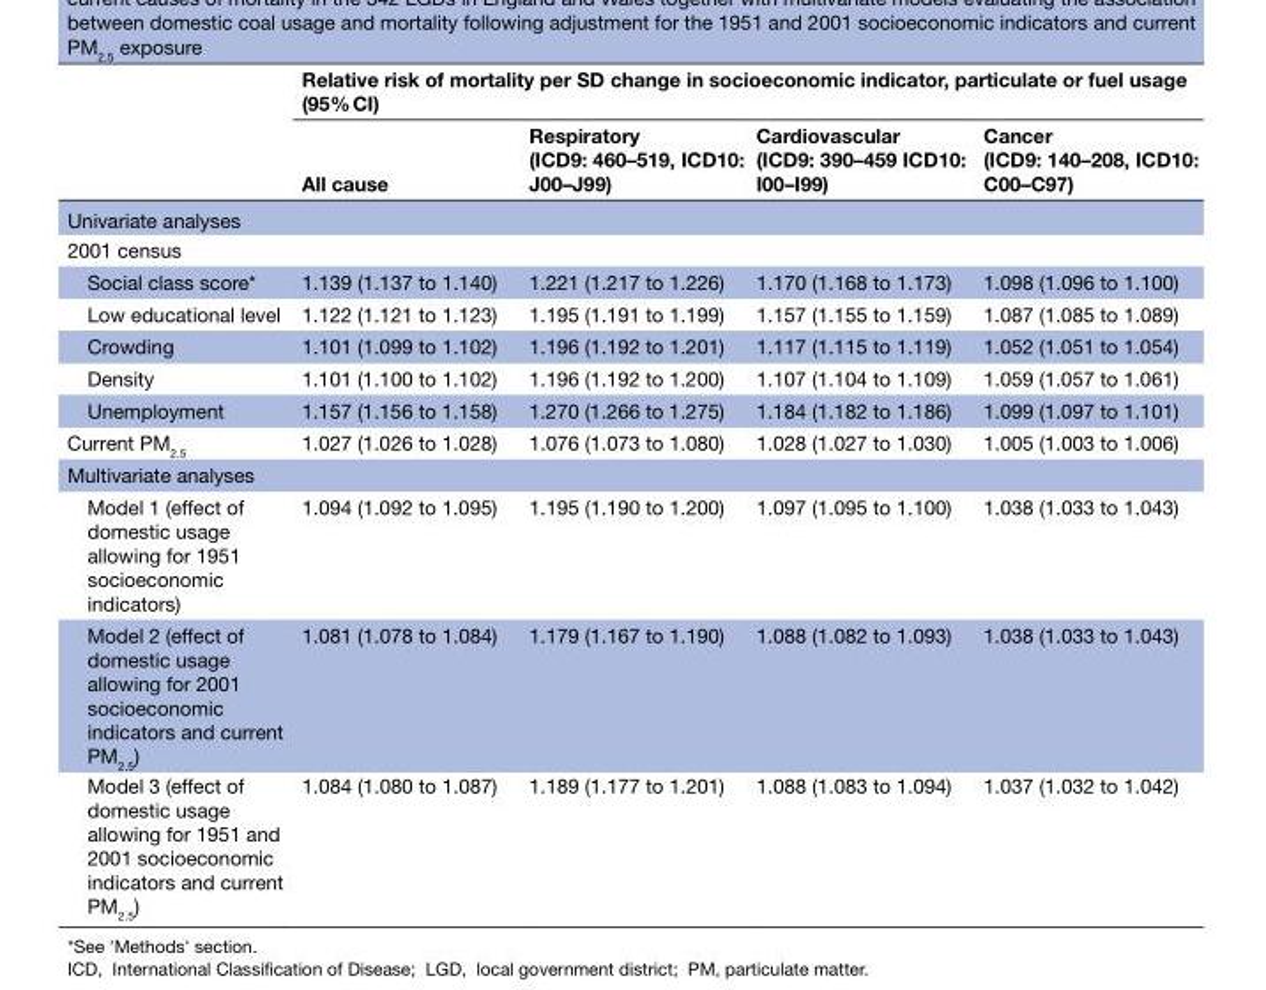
<table><thead><tr><td rowspan="2"></td><td colspan="4">Relative risk of mortality per SD change in socioeconomic indicator, particulate or fuel usage (95% CI)</td></tr><tr><td>All cause</td><td>Respiratory (ICD9: 460–519, ICD10: J00–J99)</td><td>Cardiovascular (ICD9: 390–459 ICD10: I00–I99)</td><td>Cancer (ICD9: 140–208, ICD10: C00–C97)</td></tr></thead><tbody><tr><td colspan="5">Univariate analyses</td></tr><tr><td colspan="5">2001 census</td></tr><tr><td>Social class score*</td><td>1.139 (1.137 to 1.140)</td><td>1.221 (1.217 to 1.226)</td><td>1.170 (1.168 to 1.173)</td><td>1.098 (1.096 to 1.100)</td></tr><tr><td>Low educational level</td><td>1.122 (1.121 to 1.123)</td><td>1.195 (1.191 to 1.199)</td><td>1.157 (1.155 to 1.159)</td><td>1.087 (1.085 to 1.089)</td></tr><tr><td>Crowding</td><td>1.101 (1.099 to 1.102)</td><td>1.196 (1.192 to 1.201)</td><td>1.117 (1.115 to 1.119)</td><td>1.052 (1.051 to 1.054)</td></tr><tr><td>Density</td><td>1.101 (1.100 to 1.102)</td><td>1.196 (1.192 to 1.200)</td><td>1.107 (1.104 to 1.109)</td><td>1.059 (1.057 to 1.061)</td></tr><tr><td>Unemployment</td><td>1.157 (1.156 to 1.158)</td><td>1.270 (1.266 to 1.275)</td><td>1.184 (1.182 to 1.186)</td><td>1.099 (1.097 to 1.101)</td></tr><tr><td>Current PM<sub>2.5</sub></td><td>1.027 (1.026 to 1.028)</td><td>1.076 (1.073 to 1.080)</td><td>1.028 (1.027 to 1.030)</td><td>1.005 (1.003 to 1.006)</td></tr><tr><td colspan="5">Multivariate analyses</td></tr><tr><td>Model 1 (effect of domestic usage allowing for 1951 socioeconomic indicators)</td><td>1.094 (1.092 to 1.095)</td><td>1.195 (1.190 to 1.200)</td><td>1.097 (1.095 to 1.100)</td><td>1.038 (1.033 to 1.043)</td></tr><tr><td>Model 2 (effect of domestic usage allowing for 2001 socioeconomic indicators and current PM<sub>2.5</sub>)</td><td>1.081 (1.078 to 1.084)</td><td>1.179 (1.167 to 1.190)</td><td>1.088 (1.082 to 1.093)</td><td>1.038 (1.033 to 1.043)</td></tr><tr><td>Model 3 (effect of domestic usage allowing for 1951 and 2001 socioeconomic indicators and current PM<sub>2.5</sub>)</td><td>1.084 (1.080 to 1.087)</td><td>1.189 (1.177 to 1.201)</td><td>1.088 (1.083 to 1.094)</td><td>1.037 (1.032 to 1.042)</td></tr></tbody></table>